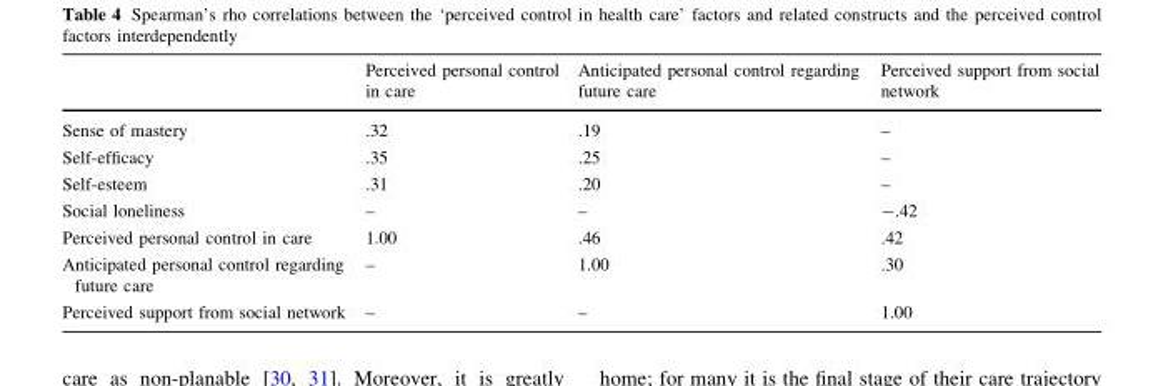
<table><thead><tr><td></td><td>Perceived personal control in care</td><td>Anticipated personal control regarding future care</td><td>Perceived support from social network</td></tr></thead><tbody><tr><td>Sense of mastery</td><td>.32</td><td>.19</td><td>–</td></tr><tr><td>Self-efficacy</td><td>.35</td><td>.25</td><td>–</td></tr><tr><td>Self-esteem</td><td>.31</td><td>.20</td><td>–</td></tr><tr><td>Social loneliness</td><td>–</td><td>–</td><td>-.42</td></tr><tr><td>Perceived personal control in care</td><td>1.00</td><td>.46</td><td>.42</td></tr><tr><td>Anticipated personal control regarding future care</td><td>–</td><td>1.00</td><td>.30</td></tr><tr><td>Perceived support from social network</td><td>–</td><td>–</td><td>1.00</td></tr></tbody></table>